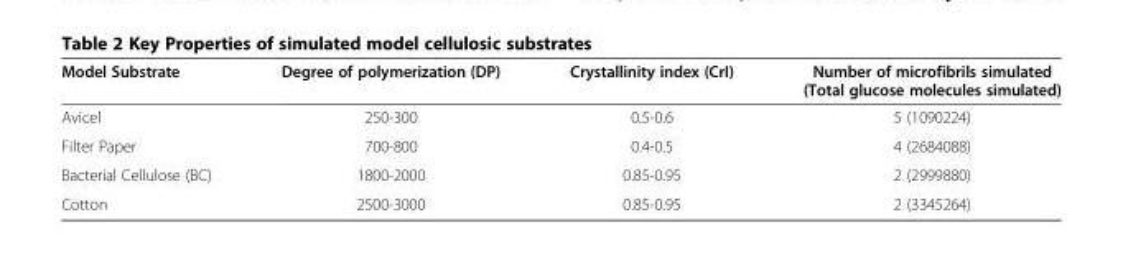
<table><thead><tr><td>Model Substrate</td><td>Degree of polymerization (DP)</td><td>Crystallinity index (CrI)</td><td>Number of microfibrils simulated (Total glucose molecules simulated)</td></tr></thead><tbody><tr><td>Avicel</td><td>250-300</td><td>0.5-0.6</td><td>5 (1090224)</td></tr><tr><td>Filter Paper</td><td>700-800</td><td>0.4-0.5</td><td>4 (2684088)</td></tr><tr><td>Bacterial Cellulose (BC)</td><td>1800-2000</td><td>0.85-0.95</td><td>2 (2999880)</td></tr><tr><td>Cotton</td><td>2500-3000</td><td>0.85-0.95</td><td>2 (3345264)</td></tr></tbody></table>